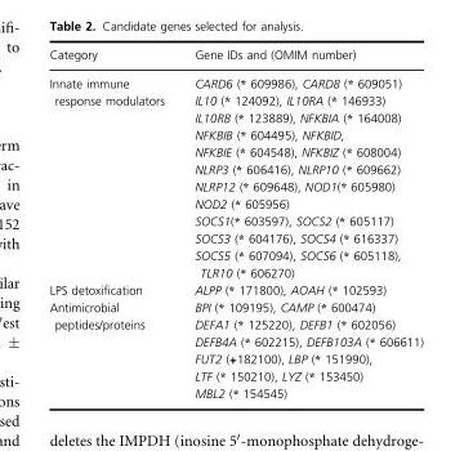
<table><thead><tr><td>Category</td><td>Gene IDs and (OMIM number)</td></tr></thead><tbody><tr><td rowspan="11">Innate immune response modulators</td><td>CARD6 (* 609986), CARD8 (* 609051)</td></tr><tr><td>IL10 (* 124092), IL10RA (* 146933)</td></tr><tr><td>IL10RB (* 123889), NFKBIA (* 164008)</td></tr><tr><td>NFKBIB (* 604495), NFKBID,</td></tr><tr><td>NFKBIE (* 604548), NFKBIZ (* 608004)</td></tr><tr><td>NLRP3 (* 606416), NLRP10 (* 609662)</td></tr><tr><td>NLRP12 (* 609648), NOD1(* 605980)</td></tr><tr><td>NOD2 (* 605956)</td></tr><tr><td>SOCS1(* 603597), SOCS2 (* 605117)</td></tr><tr><td>SOCS3 (* 604176), SOCS4 (* 616337)</td></tr><tr><td>SOCS5 (* 607094), SOCS6 (* 605118), TLR10 (* 606270)</td></tr><tr><td>LPS detoxification</td><td>ALPP (* 171800), AOAH (* 102593)</td></tr><tr><td rowspan="6">Antimicrobial peptides/proteins</td><td>BPI (* 109195), CAMP (* 600474)</td></tr><tr><td>DEFA1 (* 125220), DEFB1 (* 602056)</td></tr><tr><td>DEFB4A (* 602215), DEFB103A (* 606611)</td></tr><tr><td>FUT2 (+182100), LBP (* 151990),</td></tr><tr><td>LTF (* 150210), LYZ (* 153450)</td></tr><tr><td>MBL2 (* 154545)</td></tr></tbody></table>